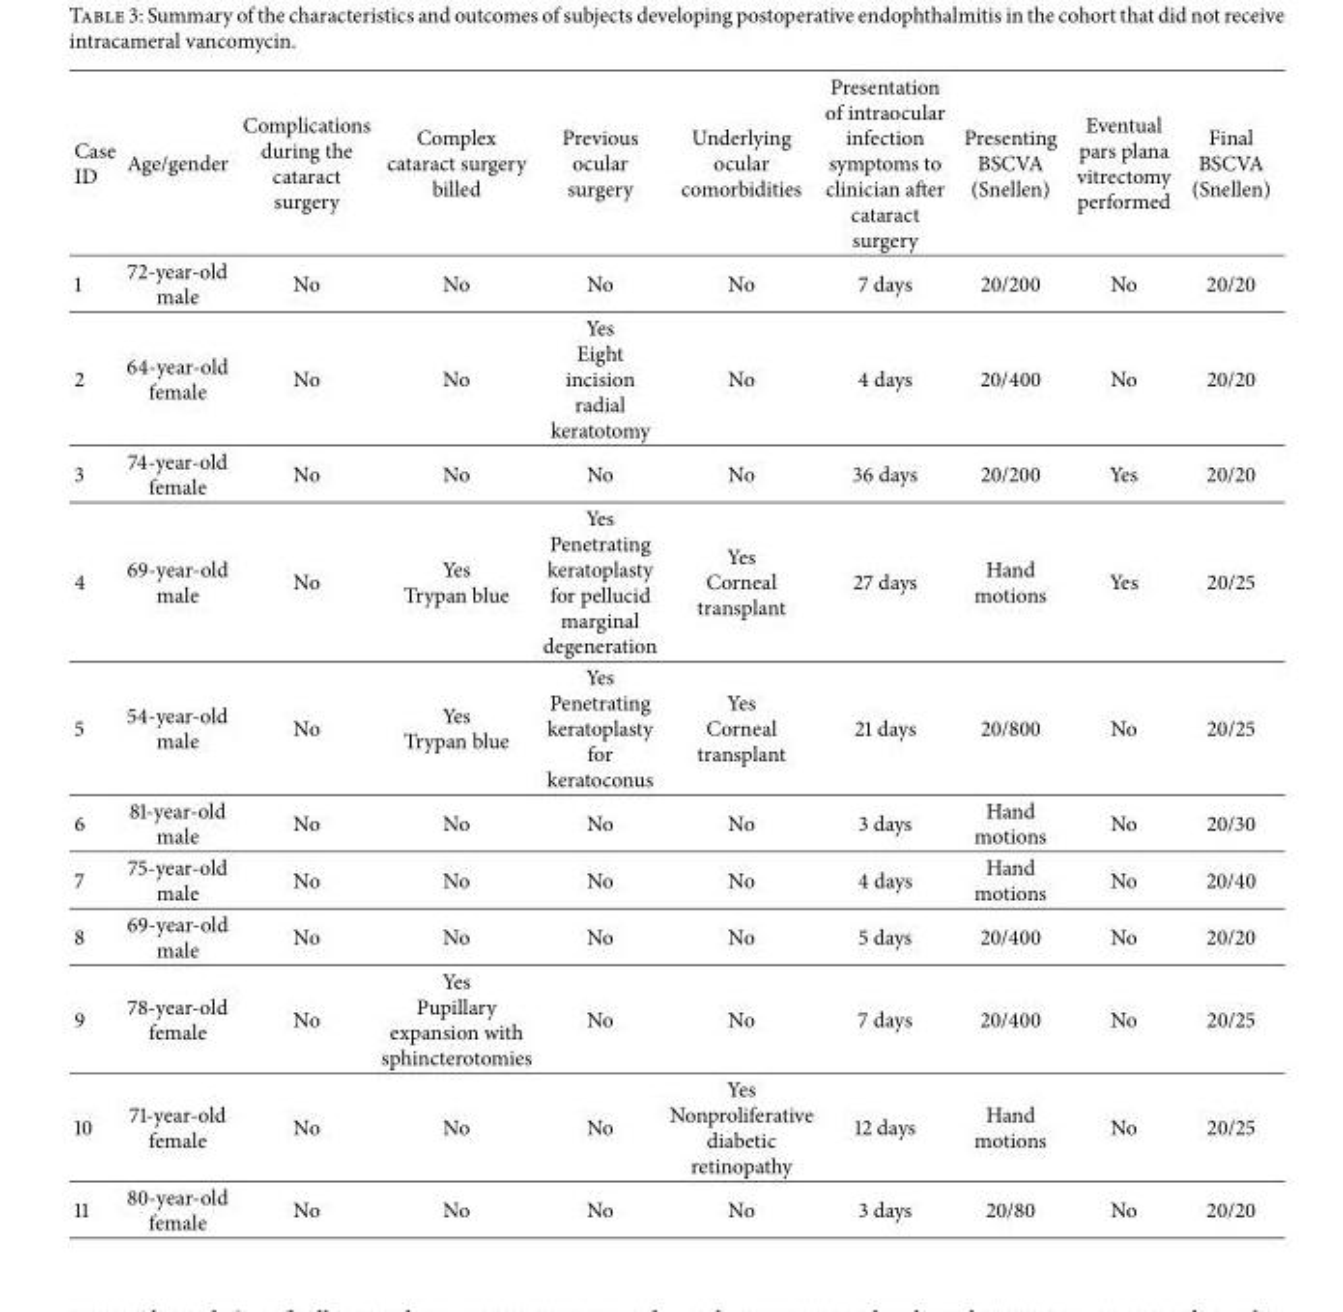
<table><tbody><tr><td>Case ID</td><td>Age/gender</td><td>Complications during the cataract surgery</td><td>Complex cataract surgery billed</td><td>Previous ocular surgery</td><td>Underlying ocular comorbidities</td><td>Presentation of intraocular infection symptoms to clinician after cataract surgery</td><td>Presenting BSCVA (Snellen)</td><td>Eventual pars plana vitrectomy performed</td><td>Final BSCVA (Snellen)</td></tr><tr><td>1</td><td>72-year-old male</td><td>No</td><td>No</td><td>No</td><td>No</td><td>7 days</td><td>20/200</td><td>No</td><td>20/20</td></tr><tr><td>2</td><td>64-year-old female</td><td>No</td><td>No</td><td>Yes Eight incision radial keratotomy</td><td>No</td><td>4 days</td><td>20/400</td><td>No</td><td>20/20</td></tr><tr><td>3</td><td>74-year-old female</td><td>No</td><td>No</td><td>No</td><td>No</td><td>36 days</td><td>20/200</td><td>Yes</td><td>20/20</td></tr><tr><td>4</td><td>69-year-old male</td><td>No</td><td>Yes Trypan blue</td><td>Yes Penetrating keratoplasty for pellucid marginal degeneration</td><td>Yes Corneal transplant</td><td>27 days</td><td>Hand motions</td><td>Yes</td><td>20/25</td></tr><tr><td>5</td><td>54-year-old male</td><td>No</td><td>Yes Trypan blue</td><td>Yes Penetrating keratoplasty for keratoconus</td><td>Yes Corneal transplant</td><td>21 days</td><td>20/800</td><td>No</td><td>20/25</td></tr><tr><td>6</td><td>81-year-old male</td><td>No</td><td>No</td><td>No</td><td>No</td><td>3 days</td><td>Hand motions</td><td>No</td><td>20/30</td></tr><tr><td>7</td><td>75-year-old male</td><td>No</td><td>No</td><td>No</td><td>No</td><td>4 days</td><td>Hand motions</td><td>No</td><td>20/40</td></tr><tr><td>8</td><td>69-year-old male</td><td>No</td><td>No</td><td>No</td><td>No</td><td>5 days</td><td>20/400</td><td>No</td><td>20/20</td></tr><tr><td>9</td><td>78-year-old female</td><td>No</td><td>Yes Pupillary expansion with sphincterotomies</td><td>No</td><td>No</td><td>7 days</td><td>20/400</td><td>No</td><td>20/25</td></tr><tr><td>10</td><td>71-year-old female</td><td>No</td><td>No</td><td>No</td><td>Yes Nonproliferative diabetic retinopathy</td><td>12 days</td><td>Hand motions</td><td>No</td><td>20/25</td></tr><tr><td>11</td><td>80-year-old female</td><td>No</td><td>No</td><td>No</td><td>No</td><td>3 days</td><td>20/80</td><td>No</td><td>20/20</td></tr></tbody></table>